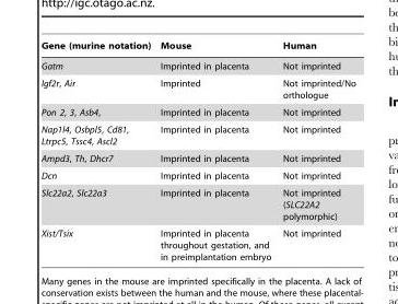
<table><thead><tr><td>Gene (murine notation)</td><td>Mouse</td><td>Human</td></tr></thead><tbody><tr><td>Gatm</td><td>Imprinted in placenta</td><td>Not imprinted</td></tr><tr><td>Igf2r, Air</td><td>Imprinted</td><td>Not imprinted/No orthologue</td></tr><tr><td>Pon 2, 3, Asb4,</td><td>Imprinted in placenta</td><td>Not imprinted</td></tr><tr><td>Nap1l4, Osbpl5, Cd81, Ltrpc5, Tssc4, Ascl2</td><td>Imprinted in placenta</td><td>Not imprinted</td></tr><tr><td>Ampd3, Th, Dhcr7</td><td>Imprinted in placenta</td><td>Not imprinted</td></tr><tr><td>Dcn</td><td>Imprinted in placenta</td><td>Not imprinted</td></tr><tr><td>Slc22a2, Slc22a3</td><td>Imprinted in placenta</td><td>Not imprinted (SLC22A2 polymorphic)</td></tr><tr><td>Xist/Tsix</td><td>Imprinted in placenta throughout gestation, and in preimplantation embryo</td><td>Not imprinted</td></tr></tbody></table>